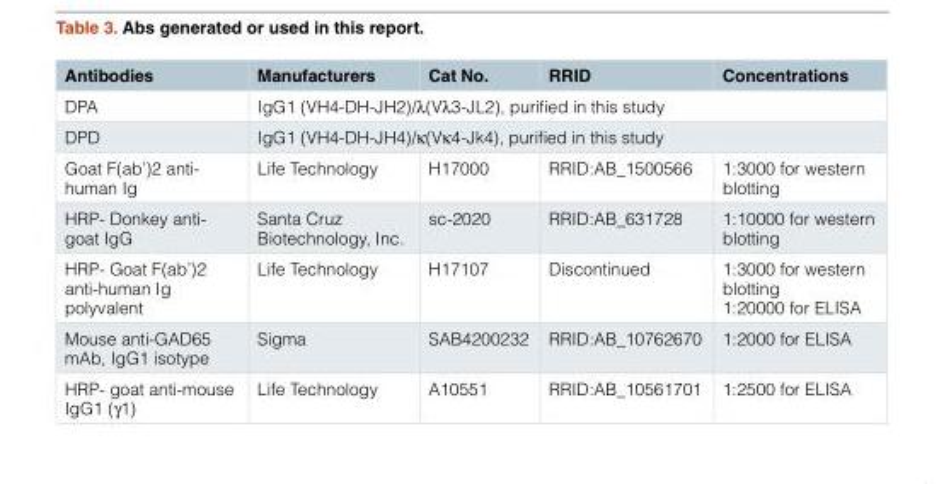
<table><thead><tr><td>Antibodies</td><td>Manufacturers</td><td>Cat No.</td><td>RRID</td><td>Concentrations</td></tr></thead><tbody><tr><td>DPA</td><td colspan="4">IgG1 (VH4-DH-JH2)/λ(Vλ3-JL2), purified in this study</td></tr><tr><td>DPD</td><td colspan="4">IgG1 (VH4-DH-JH4)/κ(Vκ4-Jk4), purified in this study</td></tr><tr><td>Goat F(ab’)2 anti- human Ig</td><td>Life Technology</td><td>H17000</td><td>RRID:AB_1500566</td><td>1:3000 for western blotting</td></tr><tr><td>HRP- Donkey anti- goat IgG</td><td>Santa Cruz Biotechnology, Inc.</td><td>sc-2020</td><td>RRID:AB_631728</td><td>1:10000 for western blotting</td></tr><tr><td>HRP- Goat F(ab’)2 anti-human Ig polyvalent</td><td>Life Technology</td><td>H17107</td><td>Discontinued</td><td>1:3000 for western blotting 1:20000 for ELISA</td></tr><tr><td>Mouse anti-GAD65 mAb, IgG1 isotype</td><td>Sigma</td><td>SAB4200232</td><td>RRID:AB_10762670</td><td>1:2000 for ELISA</td></tr><tr><td>HRP- goat anti-mouse IgG1 (γ1)</td><td>Life Technology</td><td>A10551</td><td>RRID:AB_10561701</td><td>1:2500 for ELISA</td></tr></tbody></table>